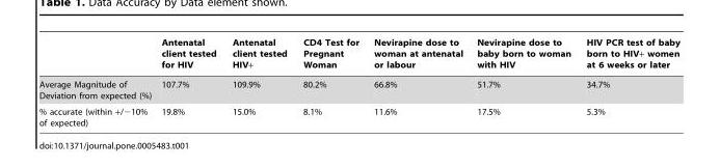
<table><thead><tr><td></td><td>Antenatal client tested for HIV</td><td>Antenatal client tested HIV+</td><td>CD4 Test for Pregnant Woman</td><td>Nevirapine dose to woman at antenatal or labour</td><td>Nevirapine dose to baby born to woman with HIV</td><td>HIV PCR test of baby born to HIV+ women at 6 weeks or later</td></tr></thead><tbody><tr><td>Average Magnitude of Deviation from expected (%)</td><td>107.7%</td><td>109.9%</td><td>80.2%</td><td>66.8%</td><td>51.7%</td><td>34.7%</td></tr><tr><td>% accurate (within +/−10% of expected)</td><td>19.8%</td><td>15.0%</td><td>8.1%</td><td>11.6%</td><td>17.5%</td><td>5.3%</td></tr></tbody></table>